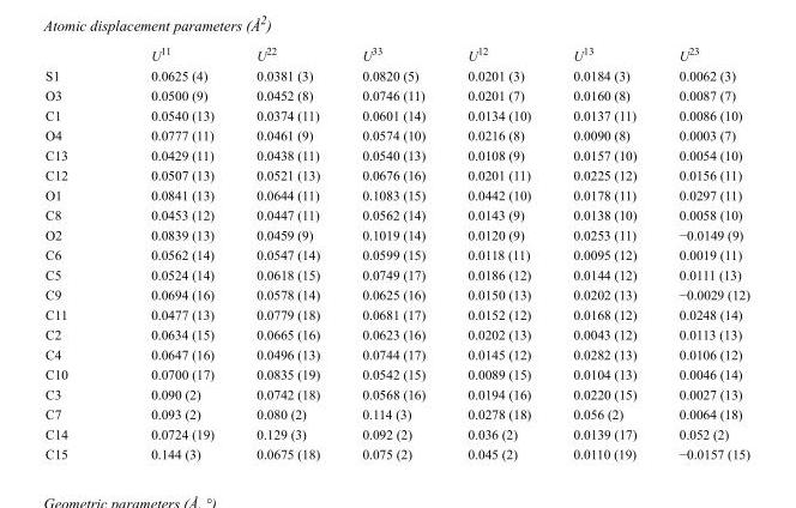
<table><thead><tr><td></td><td>U<sup>11</sup></td><td>U<sup>22</sup></td><td>U<sup>33</sup></td><td>U<sup>12</sup></td><td>U<sup>13</sup></td><td>U<sup>23</sup></td></tr></thead><tbody><tr><td>S1</td><td>0.0625 (4)</td><td>0.0381 (3)</td><td>0.0820 (5)</td><td>0.0201 (3)</td><td>0.0184 (3)</td><td>0.0062 (3)</td></tr><tr><td>O3</td><td>0.0500 (9)</td><td>0.0452 (8)</td><td>0.0746 (11)</td><td>0.0201 (7)</td><td>0.0160 (8)</td><td>0.0087 (7)</td></tr><tr><td>C1</td><td>0.0540 (13)</td><td>0.0374 (11)</td><td>0.0601 (14)</td><td>0.0134 (10)</td><td>0.0137 (11)</td><td>0.0086 (10)</td></tr><tr><td>O4</td><td>0.0777 (11)</td><td>0.0461 (9)</td><td>0.0574 (10)</td><td>0.0216 (8)</td><td>0.0090 (8)</td><td>0.0003 (7)</td></tr><tr><td>C13</td><td>0.0429 (11)</td><td>0.0438 (11)</td><td>0.0540 (13)</td><td>0.0108 (9)</td><td>0.0157 (10)</td><td>0.0054 (10)</td></tr><tr><td>C12</td><td>0.0507 (13)</td><td>0.0521 (13)</td><td>0.0676 (16)</td><td>0.0201 (11)</td><td>0.0225 (12)</td><td>0.0156 (11)</td></tr><tr><td>O1</td><td>0.0841 (13)</td><td>0.0644 (11)</td><td>0.1083 (15)</td><td>0.0442 (10)</td><td>0.0178 (11)</td><td>0.0297 (11)</td></tr><tr><td>C8</td><td>0.0453 (12)</td><td>0.0447 (11)</td><td>0.0562 (14)</td><td>0.0143 (9)</td><td>0.0138 (10)</td><td>0.0058 (10)</td></tr><tr><td>O2</td><td>0.0839 (13)</td><td>0.0459 (9)</td><td>0.1019 (14)</td><td>0.0120 (9)</td><td>0.0253 (11)</td><td>−0.0149 (9)</td></tr><tr><td>C6</td><td>0.0562 (14)</td><td>0.0547 (14)</td><td>0.0599 (15)</td><td>0.0118 (11)</td><td>0.0095 (12)</td><td>0.0019 (11)</td></tr><tr><td>C5</td><td>0.0524 (14)</td><td>0.0618 (15)</td><td>0.0749 (17)</td><td>0.0186 (12)</td><td>0.0144 (12)</td><td>0.0111 (13)</td></tr><tr><td>C9</td><td>0.0694 (16)</td><td>0.0578 (14)</td><td>0.0625 (16)</td><td>0.0150 (13)</td><td>0.0202 (13)</td><td>−0.0029 (12)</td></tr><tr><td>C11</td><td>0.0477 (13)</td><td>0.0779 (18)</td><td>0.0681 (17)</td><td>0.0152 (12)</td><td>0.0168 (12)</td><td>0.0248 (14)</td></tr><tr><td>C2</td><td>0.0634 (15)</td><td>0.0665 (16)</td><td>0.0623 (16)</td><td>0.0202 (13)</td><td>0.0043 (12)</td><td>0.0113 (13)</td></tr><tr><td>C4</td><td>0.0647 (16)</td><td>0.0496 (13)</td><td>0.0744 (17)</td><td>0.0145 (12)</td><td>0.0282 (13)</td><td>0.0106 (12)</td></tr><tr><td>C10</td><td>0.0700 (17)</td><td>0.0835 (19)</td><td>0.0542 (15)</td><td>0.0089 (15)</td><td>0.0104 (13)</td><td>0.0046 (14)</td></tr><tr><td>C3</td><td>0.090 (2)</td><td>0.0742 (18)</td><td>0.0568 (16)</td><td>0.0194 (16)</td><td>0.0220 (15)</td><td>0.0027 (13)</td></tr><tr><td>C7</td><td>0.093 (2)</td><td>0.080 (2)</td><td>0.114 (3)</td><td>0.0278 (18)</td><td>0.056 (2)</td><td>0.0064 (18)</td></tr><tr><td>C14</td><td>0.0724 (19)</td><td>0.129 (3)</td><td>0.092 (2)</td><td>0.036 (2)</td><td>0.0139 (17)</td><td>0.052 (2)</td></tr><tr><td>C15</td><td>0.144 (3)</td><td>0.0675 (18)</td><td>0.075 (2)</td><td>0.045 (2)</td><td>0.0110 (19)</td><td>−0.0157 (15)</td></tr></tbody></table>